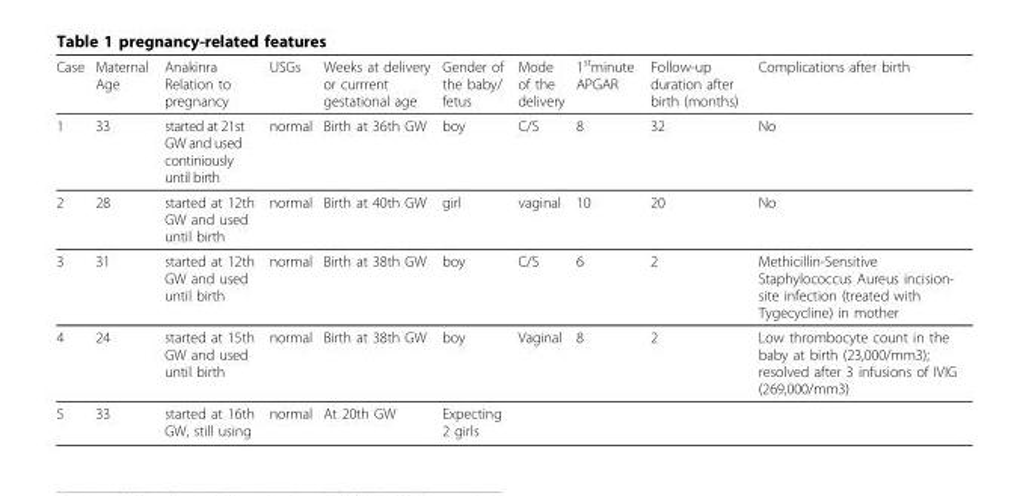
<table><thead><tr><td>Case</td><td>Maternal Age</td><td>Anakinra Relation to pregnancy</td><td>USGs</td><td>Weeks at delivery or currrent gestational age</td><td>Gender of the baby/ fetus</td><td>Mode of the delivery</td><td>1<sup>st</sup>minute APGAR</td><td>Follow-up duration after birth (months)</td><td>Complications after birth</td></tr></thead><tbody><tr><td>1</td><td>33</td><td>started at 21st GW and used continiously until birth</td><td>normal</td><td>Birth at 36th GW</td><td>boy</td><td>C/S</td><td>8</td><td>32</td><td>No</td></tr><tr><td>2</td><td>28</td><td>started at 12th GW and used until birth</td><td>normal</td><td>Birth at 40th GW</td><td>girl</td><td>vaginal</td><td>10</td><td>20</td><td>No</td></tr><tr><td>3</td><td>31</td><td>started at 12th GW and used until birth</td><td>normal</td><td>Birth at 38th GW</td><td>boy</td><td>C/S</td><td>6</td><td>2</td><td>Methicillin-Sensitive Staphylococcus Aureus incision- site infection (treated with Tygecycline) in mother</td></tr><tr><td>4</td><td>24</td><td>started at 15th GW and used until birth</td><td>normal</td><td>Birth at 38th GW</td><td>boy</td><td>Vaginal</td><td>8</td><td>2</td><td>Low thrombocyte count in the baby at birth (23,000/mm3); resolved after 3 infusions of IVIG (269,000/mm3)</td></tr><tr><td>5</td><td>33</td><td>started at 16th GW, still using</td><td>normal</td><td>At 20th GW</td><td>Expecting 2 girls</td><td></td><td></td><td></td><td></td></tr></tbody></table>